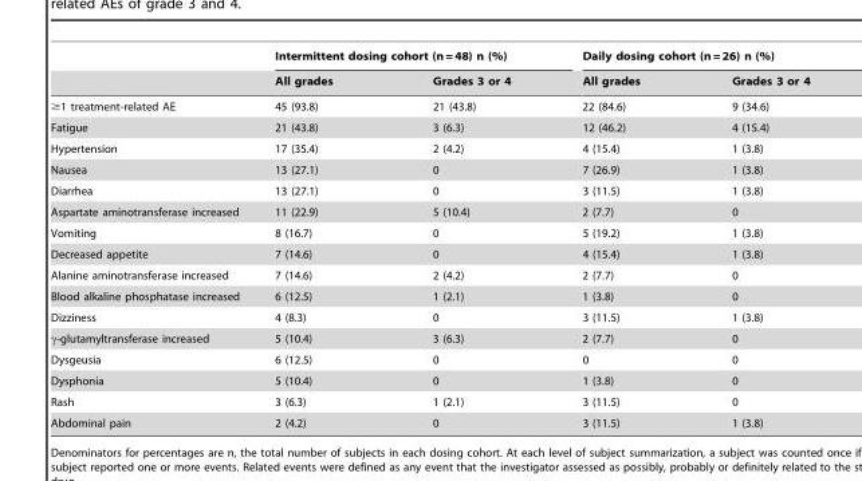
<table><thead><tr><td rowspan="2"></td><td colspan="2">Intermittent dosing cohort (n = 48) n (%)</td><td colspan="2">Daily dosing cohort (n = 26) n (%)</td></tr><tr><td>All grades</td><td>Grades 3 or 4</td><td>All grades</td><td>Grades 3 or 4</td></tr></thead><tbody><tr><td>≥1 treatment-related AE</td><td>45 (93.8)</td><td>21 (43.8)</td><td>22 (84.6)</td><td>9 (34.6)</td></tr><tr><td>Fatigue</td><td>21 (43.8)</td><td>3 (6.3)</td><td>12 (46.2)</td><td>4 (15.4)</td></tr><tr><td>Hypertension</td><td>17 (35.4)</td><td>2 (4.2)</td><td>4 (15.4)</td><td>1 (3.8)</td></tr><tr><td>Nausea</td><td>13 (27.1)</td><td>0</td><td>7 (26.9)</td><td>1 (3.8)</td></tr><tr><td>Diarrhea</td><td>13 (27.1)</td><td>0</td><td>3 (11.5)</td><td>1 (3.8)</td></tr><tr><td>Aspartate aminotransferase increased</td><td>11 (22.9)</td><td>5 (10.4)</td><td>2 (7.7)</td><td>0</td></tr><tr><td>Vomiting</td><td>8 (16.7)</td><td>0</td><td>5 (19.2)</td><td>1 (3.8)</td></tr><tr><td>Decreased appetite</td><td>7 (14.6)</td><td>0</td><td>4 (15.4)</td><td>1 (3.8)</td></tr><tr><td>Alanine aminotransferase increased</td><td>7 (14.6)</td><td>2 (4.2)</td><td>2 (7.7)</td><td>0</td></tr><tr><td>Blood alkaline phosphatase increased</td><td>6 (12.5)</td><td>1 (2.1)</td><td>1 (3.8)</td><td>0</td></tr><tr><td>Dizziness</td><td>4 (8.3)</td><td>0</td><td>3 (11.5)</td><td>1 (3.8)</td></tr><tr><td>γ-glutamyltransferase increased</td><td>5 (10.4)</td><td>3 (6.3)</td><td>2 (7.7)</td><td>0</td></tr><tr><td>Dysgeusia</td><td>6 (12.5)</td><td>0</td><td>0</td><td>0</td></tr><tr><td>Dysphonia</td><td>5 (10.4)</td><td>0</td><td>1 (3.8)</td><td>0</td></tr><tr><td>Rash</td><td>3 (6.3)</td><td>1 (2.1)</td><td>3 (11.5)</td><td>0</td></tr><tr><td>Abdominal pain</td><td>2 (4.2)</td><td>0</td><td>3 (11.5)</td><td>1 (3.8)</td></tr></tbody></table>